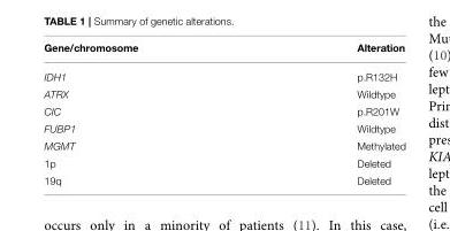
<table><thead><tr><td>Gene/chromosome</td><td>Alteration</td></tr></thead><tbody><tr><td>IDH1</td><td>p.R132H</td></tr><tr><td>ATRX</td><td>Wildtype</td></tr><tr><td>CIC</td><td>p.R201W</td></tr><tr><td>FUBP1</td><td>Wildtype</td></tr><tr><td>MGMT</td><td>Methylated</td></tr><tr><td>1p</td><td>Deleted</td></tr><tr><td>19q</td><td>Deleted</td></tr></tbody></table>